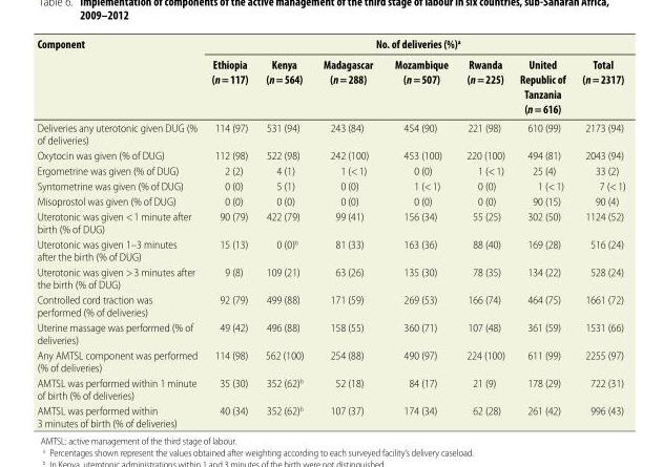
<table><thead><tr><td rowspan="2">Component</td><td colspan="7">No. of deliveries (%)<sup>a</sup></td></tr><tr><td>Ethiopia (n = 117)</td><td>Kenya (n = 564)</td><td>Madagascar (n = 288)</td><td>Mozambique (n = 507)</td><td>Rwanda (n = 225)</td><td>United Republic of Tanzania (n = 616)</td><td>Total (n = 2317)</td></tr></thead><tbody><tr><td>Deliveries any uterotonic given DUG (% of deliveries)</td><td>114 (97)</td><td>531 (94)</td><td>243 (84)</td><td>454 (90)</td><td>221 (98)</td><td>610 (99)</td><td>2173 (94)</td></tr><tr><td>Oxytocin was given (% of DUG)</td><td>112 (98)</td><td>522 (98)</td><td>242 (100)</td><td>453 (100)</td><td>220 (100)</td><td>494 (81)</td><td>2043 (94)</td></tr><tr><td>Ergometrine was given (% of DUG)</td><td>2 (2)</td><td>4 (1)</td><td>1 (&lt; 1)</td><td>0 (0)</td><td>1 (&lt; 1)</td><td>25 (4)</td><td>33 (2)</td></tr><tr><td>Syntometrine was given (% of DUG)</td><td>0 (0)</td><td>5 (1)</td><td>0 (0)</td><td>1 (&lt; 1)</td><td>0 (0)</td><td>1 (&lt; 1)</td><td>7 (&lt; 1)</td></tr><tr><td>Misoprostol was given (% of DUG)</td><td>0 (0)</td><td>0 (0)</td><td>0 (0)</td><td>0 (0)</td><td>0 (0)</td><td>90 (15)</td><td>90 (4)</td></tr><tr><td>Uterotonic was given &lt; 1 minute after birth (% of DUG)</td><td>90 (79)</td><td>422 (79)</td><td>99 (41)</td><td>156 (34)</td><td>55 (25)</td><td>302 (50)</td><td>1124 (52)</td></tr><tr><td>Uterotonic was given 1–3 minutes after the birth (% of DUG)</td><td>15 (13)</td><td>0 (0)<sup>b</sup></td><td>81 (33)</td><td>163 (36)</td><td>88 (40)</td><td>169 (28)</td><td>516 (24)</td></tr><tr><td>Uterotonic was given &gt; 3 minutes after the birth (% of DUG)</td><td>9 (8)</td><td>109 (21)</td><td>63 (26)</td><td>135 (30)</td><td>78 (35)</td><td>134 (22)</td><td>528 (24)</td></tr><tr><td>Controlled cord traction was performed (% of deliveries)</td><td>92 (79)</td><td>499 (88)</td><td>171 (59)</td><td>269 (53)</td><td>166 (74)</td><td>464 (75)</td><td>1661 (72)</td></tr><tr><td>Uterine massage was performed (% of deliveries)</td><td>49 (42)</td><td>496 (88)</td><td>158 (55)</td><td>360 (71)</td><td>107 (48)</td><td>361 (59)</td><td>1531 (66)</td></tr><tr><td>Any AMTSL component was performed (% of deliveries)</td><td>114 (98)</td><td>562 (100)</td><td>254 (88)</td><td>490 (97)</td><td>224 (100)</td><td>611 (99)</td><td>2255 (97)</td></tr><tr><td>AMTSL was performed within 1 minute of birth (% of deliveries)</td><td>35 (30)</td><td>352 (62)<sup>b</sup></td><td>52 (18)</td><td>84 (17)</td><td>21 (9)</td><td>178 (29)</td><td>722 (31)</td></tr><tr><td>AMTSL was performed within 3 minutes of birth (% of deliveries)</td><td>40 (34)</td><td>352 (62)<sup>b</sup></td><td>107 (37)</td><td>174 (34)</td><td>62 (28)</td><td>261 (42)</td><td>996 (43)</td></tr></tbody></table>